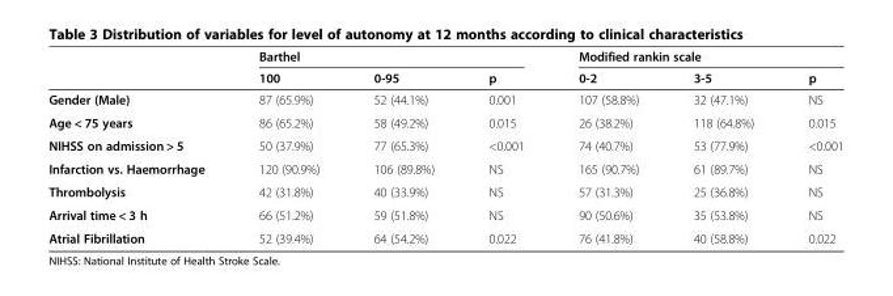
<table><thead><tr><td rowspan="2"></td><td colspan="3">Barthel</td><td colspan="3">Modified rankin scale</td></tr><tr><td>100</td><td>0-95</td><td>p</td><td>0-2</td><td>3-5</td><td>p</td></tr></thead><tbody><tr><td>Gender (Male)</td><td>87 (65.9%)</td><td>52 (44.1%)</td><td>0.001</td><td>107 (58.8%)</td><td>32 (47.1%)</td><td>NS</td></tr><tr><td>Age &lt; 75 years</td><td>86 (65.2%)</td><td>58 (49.2%)</td><td>0.015</td><td>26 (38.2%)</td><td>118 (64.8%)</td><td>0.015</td></tr><tr><td>NIHSS on admission &gt; 5</td><td>50 (37.9%)</td><td>77 (65.3%)</td><td>&lt;0.001</td><td>74 (40.7%)</td><td>53 (77.9%)</td><td>&lt;0.001</td></tr><tr><td>Infarction vs. Haemorrhage</td><td>120 (90.9%)</td><td>106 (89.8%)</td><td>NS</td><td>165 (90.7%)</td><td>61 (89.7%)</td><td>NS</td></tr><tr><td>Thrombolysis</td><td>42 (31.8%)</td><td>40 (33.9%)</td><td>NS</td><td>57 (31.3%)</td><td>25 (36.8%)</td><td>NS</td></tr><tr><td>Arrival time &lt; 3 h</td><td>66 (51.2%)</td><td>59 (51.8%)</td><td>NS</td><td>90 (50.6%)</td><td>35 (53.8%)</td><td>NS</td></tr><tr><td>Atrial Fibrillation</td><td>52 (39.4%)</td><td>64 (54.2%)</td><td>0.022</td><td>76 (41.8%)</td><td>40 (58.8%)</td><td>0.022</td></tr></tbody></table>